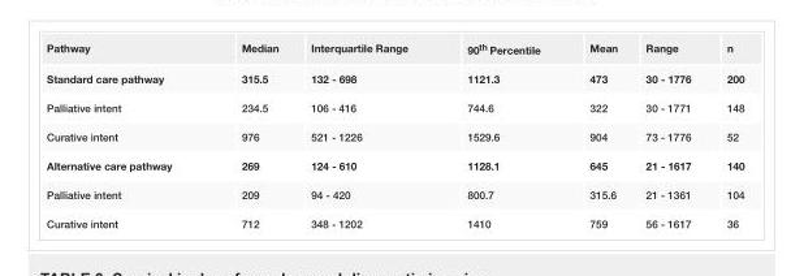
<table><tbody><tr><td>Pathway</td><td>Median</td><td>Interquartile Range</td><td>90<sup>th</sup> Percentile</td><td>Mean</td><td>Range</td><td>n</td></tr><tr><td>Standard care pathway</td><td>315.5</td><td>132 - 698</td><td>1121.3</td><td>473</td><td>30 - 1776</td><td>200</td></tr><tr><td>Palliative intent</td><td>234.5</td><td>106 - 416</td><td>744.6</td><td>322</td><td>30 - 1771</td><td>148</td></tr><tr><td>Curative intent</td><td>976</td><td>521 - 1226</td><td>1529.6</td><td>904</td><td>73 - 1776</td><td>52</td></tr><tr><td>Alternative care pathway</td><td>269</td><td>124 - 610</td><td>1128.1</td><td>645</td><td>21 - 1617</td><td>140</td></tr><tr><td>Palliative intent</td><td>209</td><td>94 - 420</td><td>800.7</td><td>315.6</td><td>21 - 1361</td><td>104</td></tr><tr><td>Curative intent</td><td>712</td><td>348 - 1202</td><td>1410</td><td>759</td><td>56 - 1617</td><td>36</td></tr></tbody></table>